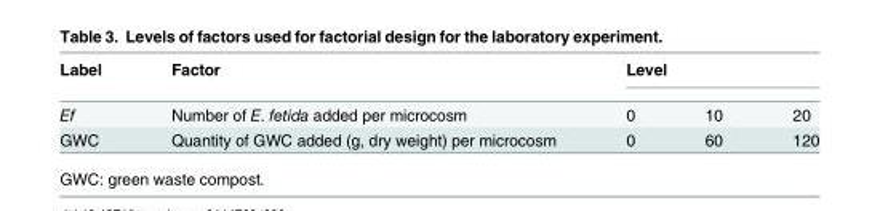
<table><thead><tr><td rowspan="2">Label Ef</td><td rowspan="2">Factor Number of E. fetida added per microcosm</td><td colspan="3">Level</td></tr><tr><td>0</td><td>10</td><td>20</td></tr></thead><tbody><tr><td>GWC</td><td>Quantity of GWC added (g, dry weight) per microcosm</td><td>0</td><td>60</td><td>120</td></tr></tbody></table>